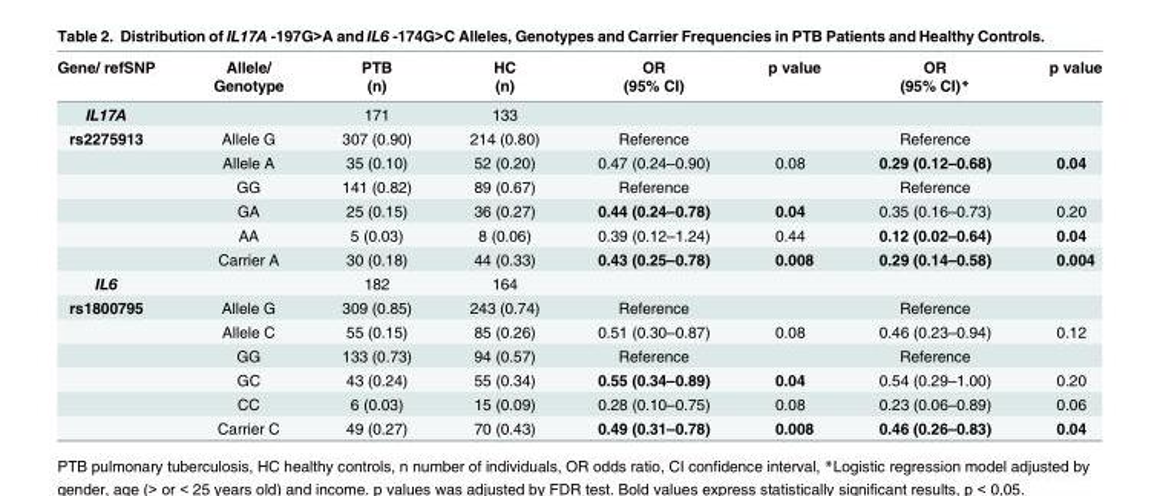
<table><thead><tr><td rowspan="2">Gene/ refSNP</td><td rowspan="2">Allele/ Genotype</td><td rowspan="2">PTB (n)</td><td rowspan="2">HC (n)</td><td rowspan="2">OR (95% CI)</td><td rowspan="2">p value</td><td rowspan="2">OR (95% CI)*</td><td rowspan="2">p value</td></tr><tr></tr></thead><tbody><tr><td>IL17A</td><td></td><td>171</td><td>133</td><td></td><td></td><td></td><td></td></tr><tr><td rowspan="6">rs2275913</td><td>Allele G</td><td>307 (0.90)</td><td>214 (0.80)</td><td>Reference</td><td></td><td>Reference</td><td></td></tr><tr><td>Allele A</td><td>35 (0.10)</td><td>52 (0.20)</td><td>0.47 (0.24–0.90)</td><td>0.08</td><td>0.29 (0.12–0.68)</td><td>0.04</td></tr><tr><td>GG</td><td>141 (0.82)</td><td>89 (0.67)</td><td>Reference</td><td></td><td>Reference</td><td></td></tr><tr><td>GA</td><td>25 (0.15)</td><td>36 (0.27)</td><td>0.44 (0.24–0.78)</td><td>0.04</td><td>0.35 (0.16–0.73)</td><td>0.20</td></tr><tr><td>AA</td><td>5 (0.03)</td><td>8 (0.06)</td><td>0.39 (0.12–1.24)</td><td>0.44</td><td>0.12 (0.02–0.64)</td><td>0.04</td></tr><tr><td>Carrier A</td><td>30 (0.18)</td><td>44 (0.33)</td><td>0.43 (0.25–0.78)</td><td>0.008</td><td>0.29 (0.14–0.58)</td><td>0.004</td></tr><tr><td>IL6</td><td></td><td>182</td><td>164</td><td></td><td></td><td></td><td></td></tr><tr><td rowspan="6">rs1800795</td><td>Allele G</td><td>309 (0.85)</td><td>243 (0.74)</td><td>Reference</td><td></td><td>Reference</td><td></td></tr><tr><td>Allele C</td><td>55 (0.15)</td><td>85 (0.26)</td><td>0.51 (0.30–0.87)</td><td>0.08</td><td>0.46 (0.23–0.94)</td><td>0.12</td></tr><tr><td>GG</td><td>133 (0.73)</td><td>94 (0.57)</td><td>Reference</td><td></td><td>Reference</td><td></td></tr><tr><td>GC</td><td>43 (0.24)</td><td>55 (0.34)</td><td>0.55 (0.34–0.89)</td><td>0.04</td><td>0.54 (0.29–1.00)</td><td>0.20</td></tr><tr><td>CC</td><td>6 (0.03)</td><td>15 (0.09)</td><td>0.28 (0.10–0.75)</td><td>0.08</td><td>0.23 (0.06–0.89)</td><td>0.06</td></tr><tr><td>Carrier C</td><td>49 (0.27)</td><td>70 (0.43)</td><td>0.49 (0.31–0.78)</td><td>0.008</td><td>0.46 (0.26–0.83)</td><td>0.04</td></tr></tbody></table>